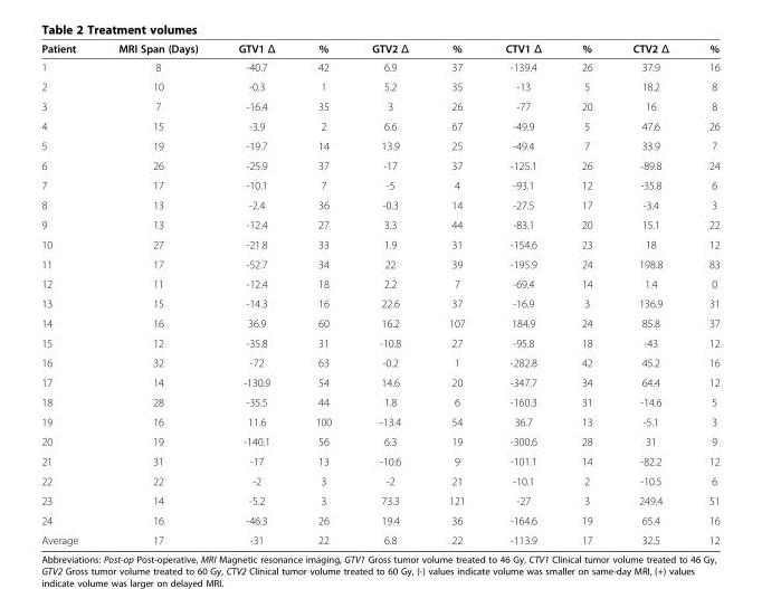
<table><thead><tr><td>Patient</td><td>MRI Span (Days)</td><td>GTV1 Δ</td><td>%</td><td>GTV2 Δ</td><td>%</td><td>CTV1 Δ</td><td>%</td><td>CTV2 Δ</td><td>%</td></tr></thead><tbody><tr><td>1</td><td>8</td><td>-40.7</td><td>42</td><td>6.9</td><td>37</td><td>-139.4</td><td>26</td><td>37.9</td><td>16</td></tr><tr><td>2</td><td>10</td><td>-0.3</td><td>1</td><td>5.2</td><td>35</td><td>-13</td><td>5</td><td>18.2</td><td>8</td></tr><tr><td>3</td><td>7</td><td>-16.4</td><td>35</td><td>3</td><td>26</td><td>-77</td><td>20</td><td>16</td><td>8</td></tr><tr><td>4</td><td>15</td><td>-3.9</td><td>2</td><td>6.6</td><td>67</td><td>-49.9</td><td>5</td><td>47.6</td><td>26</td></tr><tr><td>5</td><td>19</td><td>-19.7</td><td>14</td><td>13.9</td><td>25</td><td>-49.4</td><td>7</td><td>33.9</td><td>7</td></tr><tr><td>6</td><td>26</td><td>-25.9</td><td>37</td><td>-17</td><td>37</td><td>-125.1</td><td>26</td><td>-89.8</td><td>24</td></tr><tr><td>7</td><td>17</td><td>-10.1</td><td>7</td><td>-5</td><td>4</td><td>-93.1</td><td>12</td><td>-35.8</td><td>6</td></tr><tr><td>8</td><td>13</td><td>-2.4</td><td>36</td><td>-0.3</td><td>14</td><td>-27.5</td><td>17</td><td>-3.4</td><td>3</td></tr><tr><td>9</td><td>13</td><td>-12.4</td><td>27</td><td>3.3</td><td>44</td><td>-83.1</td><td>20</td><td>15.1</td><td>22</td></tr><tr><td>10</td><td>27</td><td>-21.8</td><td>33</td><td>1.9</td><td>31</td><td>-154.6</td><td>23</td><td>18</td><td>12</td></tr><tr><td>11</td><td>17</td><td>-52.7</td><td>34</td><td>22</td><td>39</td><td>-195.9</td><td>24</td><td>198.8</td><td>83</td></tr><tr><td>12</td><td>11</td><td>-12.4</td><td>18</td><td>2.2</td><td>7</td><td>-69.4</td><td>14</td><td>1.4</td><td>0</td></tr><tr><td>13</td><td>15</td><td>-14.3</td><td>16</td><td>22.6</td><td>37</td><td>-16.9</td><td>3</td><td>136.9</td><td>31</td></tr><tr><td>14</td><td>16</td><td>36.9</td><td>60</td><td>16.2</td><td>107</td><td>184.9</td><td>24</td><td>85.8</td><td>37</td></tr><tr><td>15</td><td>12</td><td>-35.8</td><td>31</td><td>-10.8</td><td>27</td><td>-95.8</td><td>18</td><td>-43</td><td>12</td></tr><tr><td>16</td><td>32</td><td>-72</td><td>63</td><td>-0.2</td><td>1</td><td>-282.8</td><td>42</td><td>45.2</td><td>16</td></tr><tr><td>17</td><td>14</td><td>-130.9</td><td>54</td><td>14.6</td><td>20</td><td>-347.7</td><td>34</td><td>64.4</td><td>12</td></tr><tr><td>18</td><td>28</td><td>-35.5</td><td>44</td><td>1.8</td><td>6</td><td>-160.3</td><td>31</td><td>-14.6</td><td>5</td></tr><tr><td>19</td><td>16</td><td>11.6</td><td>100</td><td>-13.4</td><td>54</td><td>36.7</td><td>13</td><td>-5.1</td><td>3</td></tr><tr><td>20</td><td>19</td><td>-140.1</td><td>56</td><td>6.3</td><td>19</td><td>-300.6</td><td>28</td><td>31</td><td>9</td></tr><tr><td>21</td><td>31</td><td>-17</td><td>13</td><td>-10.6</td><td>9</td><td>-101.1</td><td>14</td><td>-82.2</td><td>12</td></tr><tr><td>22</td><td>22</td><td>-2</td><td>3</td><td>-2</td><td>21</td><td>-10.1</td><td>2</td><td>-10.5</td><td>6</td></tr><tr><td>23</td><td>14</td><td>-5.2</td><td>3</td><td>73.3</td><td>121</td><td>-27</td><td>3</td><td>249.4</td><td>51</td></tr><tr><td>24</td><td>16</td><td>-46.3</td><td>26</td><td>19.4</td><td>36</td><td>-164.6</td><td>19</td><td>65.4</td><td>16</td></tr><tr><td>Average</td><td>17</td><td>-31</td><td>22</td><td>6.8</td><td>22</td><td>-113.9</td><td>17</td><td>32.5</td><td>12</td></tr></tbody></table>